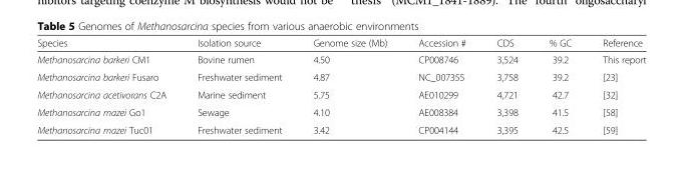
<table><thead><tr><td>Species</td><td>Isolation source</td><td>Genome size (Mb)</td><td>Accession #</td><td>CDS</td><td>% GC</td><td>Reference</td></tr></thead><tbody><tr><td>Methanosarcina barkeri CM1</td><td>Bovine rumen</td><td>4.50</td><td>CP008746</td><td>3,524</td><td>39.2</td><td>This report</td></tr><tr><td>Methanosarcina barkeri Fusaro</td><td>Freshwater sediment</td><td>4.87</td><td>NC_007355</td><td>3,758</td><td>39.2</td><td>[23]</td></tr><tr><td>Methanosarcina acetivorans C2A</td><td>Marine sediment</td><td>5.75</td><td>AE010299</td><td>4,721</td><td>42.7</td><td>[32]</td></tr><tr><td>Methanosarcina mazei Go1</td><td>Sewage</td><td>4.10</td><td>AE008384</td><td>3,398</td><td>41.5</td><td>[58]</td></tr><tr><td>Methanosarcina mazei Tuc01</td><td>Freshwater sediment</td><td>3.42</td><td>CP004144</td><td>3,395</td><td>42.5</td><td>[59]</td></tr></tbody></table>